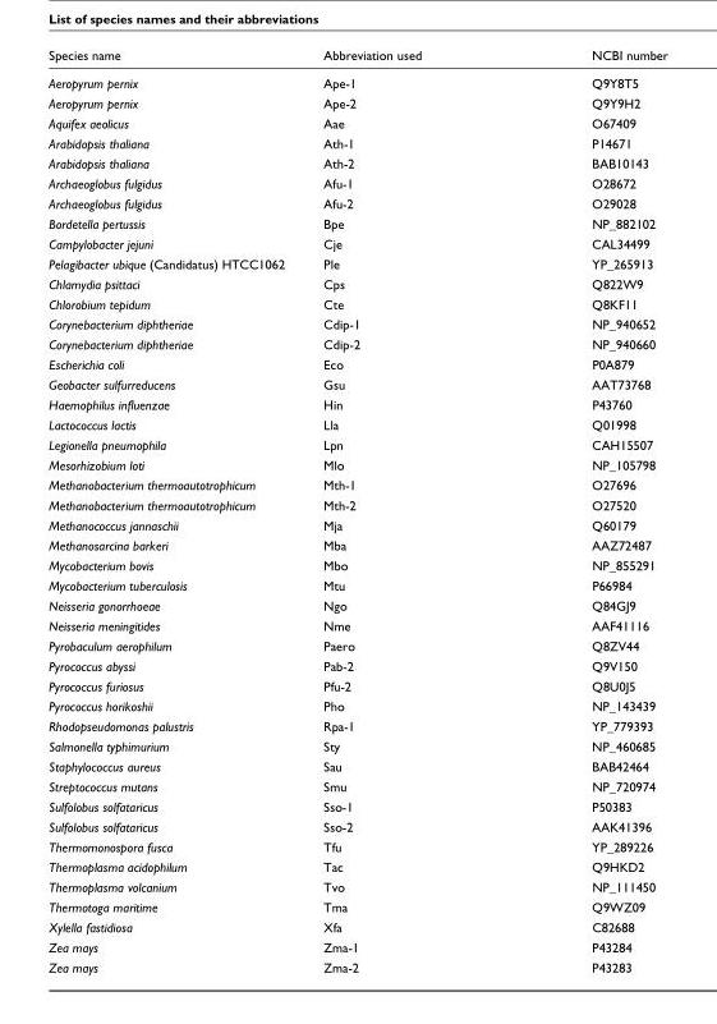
<table><thead><tr><td>Species name</td><td>Abbreviation used</td><td>NCBI number</td></tr></thead><tbody><tr><td>Aeropyrum pernix</td><td>Ape-1</td><td>Q9Y8T5</td></tr><tr><td>Aeropyrum pernix</td><td>Ape-2</td><td>Q9Y9H2</td></tr><tr><td>Aquifex aeolicus</td><td>Aae</td><td>O67409</td></tr><tr><td>Arabidopsis thaliana</td><td>Ath-1</td><td>P14671</td></tr><tr><td>Arabidopsis thaliana</td><td>Ath-2</td><td>BAB10143</td></tr><tr><td>Archaeoglobus fulgidus</td><td>Afu-1</td><td>O28672</td></tr><tr><td>Archaeoglobus fulgidus</td><td>Afu-2</td><td>O29028</td></tr><tr><td>Bordetella pertussis</td><td>Bpe</td><td>NP_882102</td></tr><tr><td>Campylobacter jejuni</td><td>Cje</td><td>CAL34499</td></tr><tr><td>Pelagibacter ubique (Candidatus) HTCC1062</td><td>Ple</td><td>YP_265913</td></tr><tr><td>Chlamydia psittaci</td><td>Cps</td><td>Q822W9</td></tr><tr><td>Chlorobium tepidum</td><td>Cte</td><td>Q8KF11</td></tr><tr><td>Corynebacterium diphtheriae</td><td>Cdip-1</td><td>NP_940652</td></tr><tr><td>Corynebacterium diphtheriae</td><td>Cdip-2</td><td>NP_940660</td></tr><tr><td>Escherichia coli</td><td>Eco</td><td>P0A879</td></tr><tr><td>Geobacter sulfurreducens</td><td>Gsu</td><td>AAT73768</td></tr><tr><td>Haemophilus influenzae</td><td>Hin</td><td>P43760</td></tr><tr><td>Lactococcus lactis</td><td>Lla</td><td>Q01998</td></tr><tr><td>Legionella pneumophila</td><td>Lpn</td><td>CAH15507</td></tr><tr><td>Mesorhizobium loti</td><td>Mlo</td><td>NP_105798</td></tr><tr><td>Methanobacterium thermoautotrophicum</td><td>Mth-1</td><td>O27696</td></tr><tr><td>Methanobacterium thermoautotrophicum</td><td>Mth-2</td><td>O27520</td></tr><tr><td>Methanococcus jannaschii</td><td>Mja</td><td>Q60179</td></tr><tr><td>Methanosarcina barkeri</td><td>Mba</td><td>AAZ72487</td></tr><tr><td>Mycobacterium bovis</td><td>Mbo</td><td>NP_855291</td></tr><tr><td>Mycobacterium tuberculosis</td><td>Mtu</td><td>P66984</td></tr><tr><td>Neisseria gonorrhoeae</td><td>Ngo</td><td>Q84GJ9</td></tr><tr><td>Neisseria meningitides</td><td>Nme</td><td>AAF41116</td></tr><tr><td>Pyrobaculum aerophilum</td><td>Paero</td><td>Q8ZV44</td></tr><tr><td>Pyrococcus abyssi</td><td>Pab-2</td><td>Q9V150</td></tr><tr><td>Pyrococcus furiosus</td><td>Pfu-2</td><td>Q8U0J5</td></tr><tr><td>Pyrococcus horikoshii</td><td>Pho</td><td>NP_143439</td></tr><tr><td>Rhodopseudomonas palustris</td><td>Rpa-1</td><td>YP_779393</td></tr><tr><td>Salmonella typhimurium</td><td>Sty</td><td>NP_460685</td></tr><tr><td>Staphylococcus aureus</td><td>Sau</td><td>BAB42464</td></tr><tr><td>Streptococcus mutans</td><td>Smu</td><td>NP_720974</td></tr><tr><td>Sulfolobus solfataricus</td><td>Sso-1</td><td>P50383</td></tr><tr><td>Sulfolobus solfataricus</td><td>Sso-2</td><td>AAK41396</td></tr><tr><td>Thermomonospora fusca</td><td>Tfu</td><td>YP_289226</td></tr><tr><td>Thermoplasma acidophilum</td><td>Tac</td><td>Q9HKD2</td></tr><tr><td>Thermoplasma volcanium</td><td>Tvo</td><td>NP_111450</td></tr><tr><td>Thermotoga maritime</td><td>Tma</td><td>Q9WZ09</td></tr><tr><td>Xylella fastidiosa</td><td>Xfa</td><td>C82688</td></tr><tr><td>Zea mays</td><td>Zma-1</td><td>P43284</td></tr><tr><td>Zea mays</td><td>Zma-2</td><td>P43283</td></tr></tbody></table>